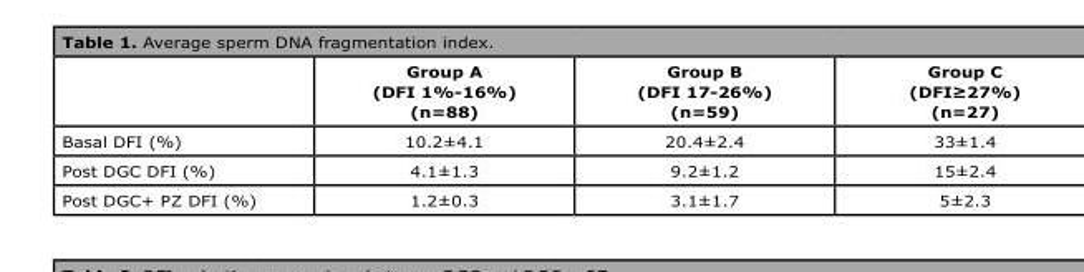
<table><thead><tr><td></td><td>Group A (DFI 1%-16%) (n=88)</td><td>Group B (DFI 17-26%) (n=59)</td><td>Group C (DFI≥27%) (n=27)</td></tr></thead><tbody><tr><td>Basal DFI (%)</td><td>10.2±4.1</td><td>20.4±2.4</td><td>33±1.4</td></tr><tr><td>Post DGC DFI (%)</td><td>4.1±1.3</td><td>9.2±1.2</td><td>15±2.4</td></tr><tr><td>Post DGC+ PZ DFI (%)</td><td>1.2±0.3</td><td>3.1±1.7</td><td>5±2.3</td></tr></tbody></table>